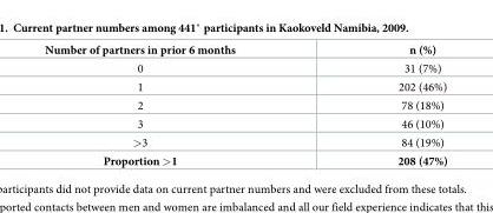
<table><thead><tr><td>Number of partners in prior 6 months</td><td>n (%)</td></tr></thead><tbody><tr><td>0</td><td>31 (7%)</td></tr><tr><td>1</td><td>202 (46%)</td></tr><tr><td>2</td><td>78 (18%)</td></tr><tr><td>3</td><td>46 (10%)</td></tr><tr><td>&gt;3</td><td>84 (19%)</td></tr><tr><td>Proportion &gt;1</td><td>208 (47%)</td></tr></tbody></table>